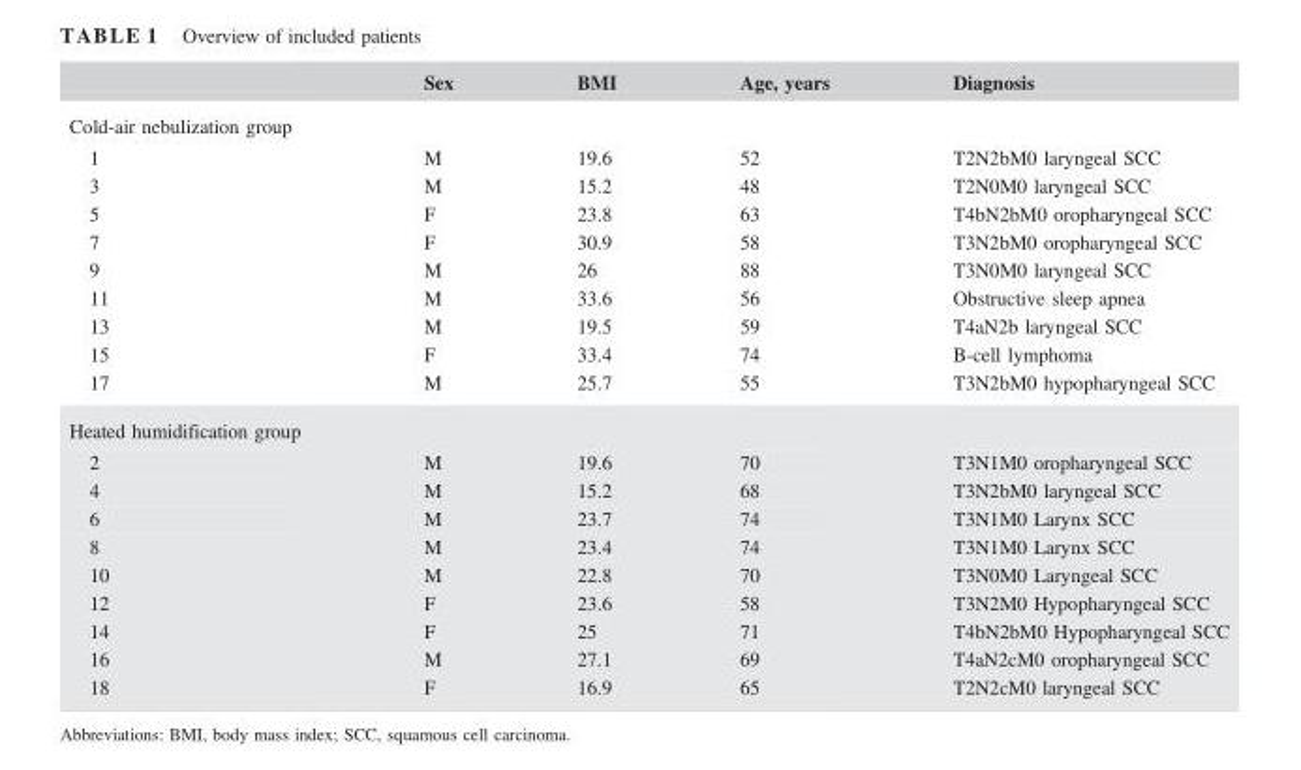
<table><thead><tr><td></td><td>Sex</td><td>BMI</td><td>Age, years</td><td>Diagnosis</td></tr></thead><tbody><tr><td colspan="5">Cold-air nebulization group</td></tr><tr><td>1</td><td>M</td><td>19.6</td><td>52</td><td>T2N2bM0 laryngeal SCC</td></tr><tr><td>3</td><td>M</td><td>15.2</td><td>48</td><td>T2N0M0 laryngeal SCC</td></tr><tr><td>5</td><td>F</td><td>23.8</td><td>63</td><td>T4bN2bM0 oropharyngeal SCC</td></tr><tr><td>7</td><td>F</td><td>30.9</td><td>58</td><td>T3N2bM0 oropharyngeal SCC</td></tr><tr><td>9</td><td>M</td><td>26</td><td>88</td><td>T3N0M0 laryngeal SCC</td></tr><tr><td>11</td><td>M</td><td>33.6</td><td>56</td><td>Obstructive sleep apnea</td></tr><tr><td>13</td><td>M</td><td>19.5</td><td>59</td><td>T4aN2b laryngeal SCC</td></tr><tr><td>15</td><td>F</td><td>33.4</td><td>74</td><td>B-cell lymphoma</td></tr><tr><td>17</td><td>M</td><td>25.7</td><td>55</td><td>T3N2bM0 hypopharyngeal SCC</td></tr><tr><td colspan="5">Heated humidification group</td></tr><tr><td>2</td><td>M</td><td>19.6</td><td>70</td><td>T3N1M0 oropharyngeal SCC</td></tr><tr><td>4</td><td>M</td><td>15.2</td><td>68</td><td>T3N2bM0 laryngeal SCC</td></tr><tr><td>6</td><td>M</td><td>23.7</td><td>74</td><td>T3N1M0 Larynx SCC</td></tr><tr><td>8</td><td>M</td><td>23.4</td><td>74</td><td>T3N1M0 Larynx SCC</td></tr><tr><td>10</td><td>M</td><td>22.8</td><td>70</td><td>T3N0M0 Laryngeal SCC</td></tr><tr><td>12</td><td>F</td><td>23.6</td><td>58</td><td>T3N2M0 Hypopharyngeal SCC</td></tr><tr><td>14</td><td>F</td><td>25</td><td>71</td><td>T4bN2bM0 Hypopharyngeal SCC</td></tr><tr><td>16</td><td>M</td><td>27.1</td><td>69</td><td>T4aN2cM0 oropharyngeal SCC</td></tr><tr><td>18</td><td>F</td><td>16.9</td><td>65</td><td>T2N2cM0 laryngeal SCC</td></tr></tbody></table>